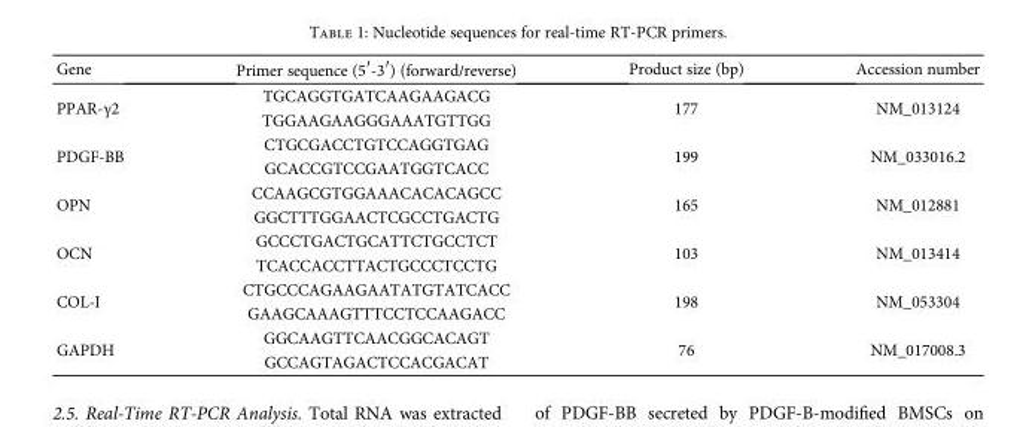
<table><thead><tr><td>Gene</td><td>Primer sequence (5′-3′) (forward/reverse)</td><td>Product size (bp)</td><td>Accession number</td></tr></thead><tbody><tr><td rowspan="2">PPAR-γ2</td><td>TGCAGGTGATCAAGAAGACG</td><td rowspan="2">177</td><td rowspan="2">NM_013124</td></tr><tr><td>TGGAAGAAGGGAAATGTTGG</td></tr><tr><td rowspan="2">PDGF-BB</td><td>CTGCGACCTGTCCAGGTGAG</td><td rowspan="2">199</td><td rowspan="2">NM_033016.2</td></tr><tr><td>GCACCGTCCGAATGGTCACC</td></tr><tr><td rowspan="2">OPN</td><td>CCAAGCGTGGAAACACACAGCC</td><td rowspan="2">165</td><td rowspan="2">NM_012881</td></tr><tr><td>GGCTTTGGAACTCGCCTGACTG</td></tr><tr><td rowspan="2">OCN</td><td>GCCCTGACTGCATTCTGCCTCT</td><td rowspan="2">103</td><td rowspan="2">NM_013414</td></tr><tr><td>TCACCACCTTACTGCCCTCCTG</td></tr><tr><td rowspan="2">COL-I</td><td>CTGCCCAGAAGAATATGTATCACC</td><td rowspan="2">198</td><td rowspan="2">NM_053304</td></tr><tr><td>GAAGCAAAGTTTCCTCCAAGACC</td></tr><tr><td rowspan="2">GAPDH</td><td>GGCAAGTTCAACGGCACAGT</td><td rowspan="2">76</td><td rowspan="2">NM_017008.3</td></tr><tr><td>GCCAGTAGACTCCACGACAT</td></tr></tbody></table>